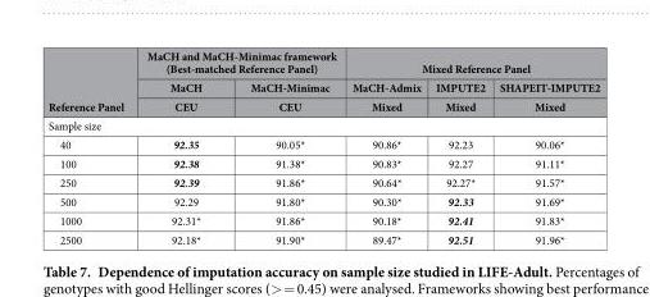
<table><thead><tr><td rowspan="3">Reference Panel</td><td colspan="2">MaCH and MaCH-Minimac framework (Best-matched Reference Panel)</td><td colspan="3">Mixed Reference Panel</td></tr><tr><td rowspan="2">MaCH CEU</td><td rowspan="2">MaCH-Minimac CEU</td><td rowspan="2">MaCH-Admix Mixed</td><td rowspan="2">IMPUTE2 Mixed</td><td rowspan="2">SHAPEIT-IMPUTE2 Mixed</td></tr><tr></tr></thead><tbody><tr><td colspan="6">Sample size</td></tr><tr><td>40</td><td>92.35</td><td>90.05*</td><td>90.86*</td><td>92.23</td><td>90.06*</td></tr><tr><td>100</td><td>92.38</td><td>91.38*</td><td>90.83*</td><td>92.27</td><td>91.11*</td></tr><tr><td>250</td><td>92.39</td><td>91.86*</td><td>90.64*</td><td>92.27*</td><td>91.57*</td></tr><tr><td>500</td><td>92.29</td><td>91.80*</td><td>90.30*</td><td>92.33</td><td>91.69*</td></tr><tr><td>1000</td><td>92.31*</td><td>91.86*</td><td>90.18*</td><td>92.41</td><td>91.83*</td></tr><tr><td>2500</td><td>92.18*</td><td>91.90*</td><td>89.47*</td><td>92.51</td><td>91.96*</td></tr></tbody></table>